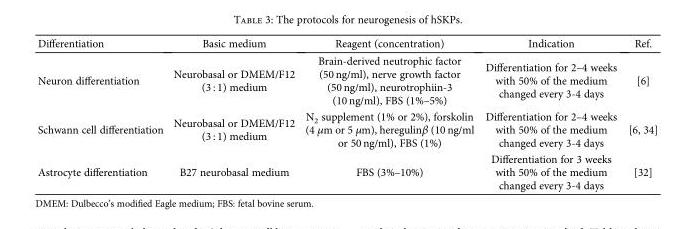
<table><thead><tr><td>Differentiation</td><td>Basic medium</td><td>Reagent (concentration)</td><td>Indication</td><td>Ref.</td></tr></thead><tbody><tr><td>Neuron differentiation</td><td>Neurobasal or DMEM/F12 (3 : 1) medium</td><td>Brain-derived neutrophic factor (50 ng/ml), nerve growth factor (50 ng/ml), neurotrophiin-3 (10 ng/ml), FBS (1%–5%)</td><td>Differentiation for 2–4 weeks with 50% of the medium changed every 3-4 days</td><td>[6]</td></tr><tr><td>Schwann cell differentiation</td><td>Neurobasal or DMEM/F12 (3 : 1) medium</td><td>N<sub>2</sub> supplement (1% or 2%), forskolin (4 μm or 5 μm), heregulinβ (10 ng/ml or 50 ng/ml), FBS (1%)</td><td>Differentiation for 2–4 weeks with 50% of the medium changed every 3-4 days</td><td>[6, 34]</td></tr><tr><td>Astrocyte differentiation</td><td>B27 neurobasal medium</td><td>FBS (3%–10%)</td><td>Differentiation for 3 weeks with 50% of the medium changed every 3-4 days</td><td>[32]</td></tr></tbody></table>